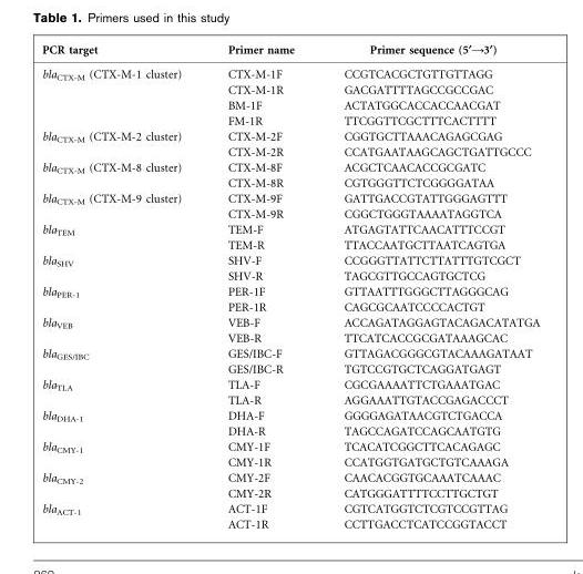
<table><thead><tr><td>PCR target</td><td>Primer name</td><td>Primer sequence (5§A3§)</td></tr></thead><tbody><tr><td rowspan="4">bla<sub>CTX-M</sub> (CTX-M-1 cluster)</td><td>CTX-M-1F</td><td>CCGTCACGCTGTTGTTAGG</td></tr><tr><td>CTX-M-1R</td><td>GACGATTTTAGCCGCCGAC</td></tr><tr><td>BM-1F</td><td>ACTATGGCACCACCAACGAT</td></tr><tr><td>FM-1R</td><td>TTCGGTTCGCTTTCACTTTT</td></tr><tr><td rowspan="2">bla<sub>CTX-M</sub> (CTX-M-2 cluster)</td><td>CTX-M-2F</td><td>CGGTGCTTAAACAGAGCGAG</td></tr><tr><td>CTX-M-2R</td><td>CCATGAATAAGCAGCTGATTGCCC</td></tr><tr><td rowspan="2">bla<sub>CTX-M</sub> (CTX-M-8 cluster)</td><td>CTX-M-8F</td><td>ACGCTCAACACCGCGATC</td></tr><tr><td>CTX-M-8R</td><td>CGTGGGTTCTCGGGGATAA</td></tr><tr><td rowspan="2">bla<sub>CTX-M</sub> (CTX-M-9 cluster)</td><td>CTX-M-9F</td><td>GATTGACCGTATTGGGAGTTT</td></tr><tr><td>CTX-M-9R</td><td>CGGCTGGGTAAAATAGGTCA</td></tr><tr><td rowspan="2">bla<sub>TEM</sub></td><td>TEM-F</td><td>ATGAGTATTCAACATTTCCGT</td></tr><tr><td>TEM-R</td><td>TTACCAATGCTTAATCAGTGA</td></tr><tr><td rowspan="2">bla<sub>SHV</sub></td><td>SHV-F</td><td>CCGGGTTATTCTTATTTGTCGCT</td></tr><tr><td>SHV-R</td><td>TAGCGTTGCCAGTGCTCG</td></tr><tr><td rowspan="2">bla<sub>PER-1</sub></td><td>PER-1F</td><td>GTTAATTTGGGCTTAGGGCAG</td></tr><tr><td>PER-1R</td><td>CAGCGCAATCCCCACTGT</td></tr><tr><td rowspan="2">bla<sub>VEB</sub></td><td>VEB-F</td><td>ACCAGATAGGAGTACAGACATATGA</td></tr><tr><td>VEB-R</td><td>TTCATCACCGCGATAAAGCAC</td></tr><tr><td rowspan="2">bla<sub>GES/IBC</sub></td><td>GES/IBC-F</td><td>GTTAGACGGGCGTACAAAGATAAT</td></tr><tr><td>GES/IBC-R</td><td>TGTCCGTGCTCAGGATGAGT</td></tr><tr><td rowspan="2">bla<sub>TLA</sub></td><td>TLA-F</td><td>CGCGAAAATTCTGAAATGAC</td></tr><tr><td>TLA-R</td><td>AGGAAATTGTACCGAGACCCT</td></tr><tr><td rowspan="2">bla<sub>DHA-1</sub></td><td>DHA-F</td><td>GGGGAGATAACGTCTGACCA</td></tr><tr><td>DHA-R</td><td>TAGCCAGATCCAGCAATGTG</td></tr><tr><td rowspan="2">bla<sub>CMY-1</sub></td><td>CMY-1F</td><td>TCACATCGGCTTCACAGAGC</td></tr><tr><td>CMY-1R</td><td>CCATGGTGATGCTGTCAAAGA</td></tr><tr><td rowspan="2">bla<sub>CMY-2</sub></td><td>CMY-2F</td><td>CAACACGGTGCAAATCAAAC</td></tr><tr><td>CMY-2R</td><td>CATGGGATTTTCCTTGCTGT</td></tr><tr><td rowspan="2">bla<sub>ACT-1</sub></td><td>ACT-1F</td><td>CGTCATGGTCTCGTCCGTTAG</td></tr><tr><td>ACT-1R</td><td>CCTTGACCTCATCCGGTACCT</td></tr></tbody></table>